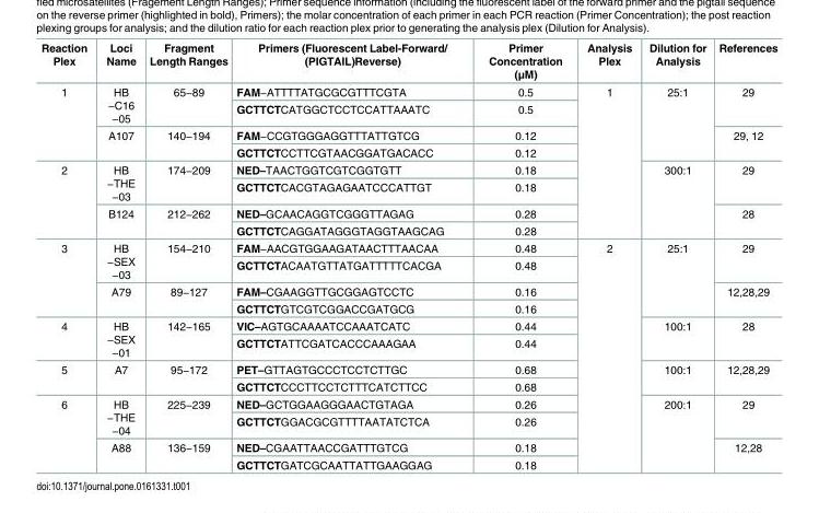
<table><thead><tr><td>Reaction Plex</td><td>Loci Name</td><td>Fragment Length Ranges</td><td>Primers (Fluorescent Label-Forward/ (PIGTAIL)Reverse)</td><td>Primer Concentration (μM)</td><td>Analysis Plex</td><td>Dilution for Analysis</td><td>References</td></tr></thead><tbody><tr><td rowspan="4">1</td><td rowspan="2">HB −C16 −05</td><td rowspan="2">65−89</td><td>FAM−ATTTTATGCGCGTTTCGTA</td><td>0.5</td><td rowspan="8">1</td><td rowspan="4">25:1</td><td rowspan="2">29</td></tr><tr><td>GCTTCTCATGGCTCCTCCATTAAATC</td><td>0.5</td></tr><tr><td rowspan="2">A107</td><td rowspan="2">140−194</td><td>FAM−CCGTGGGAGGTTTATTGTCG</td><td>0.12</td><td rowspan="2">29, 12</td></tr><tr><td>GCTTCTCCTTCGTAACGGATGACACC</td><td>0.12</td></tr><tr><td rowspan="4">2</td><td rowspan="2">HB −THE −03</td><td rowspan="2">174−209</td><td>NED–TAACTGGTCGTCGGTGTT</td><td>0.18</td><td rowspan="4">300:1</td><td rowspan="2">29</td></tr><tr><td>GCTTCTCACGTAGAGAATCCCATTGT</td><td>0.18</td></tr><tr><td rowspan="2">B124</td><td rowspan="2">212−262</td><td>NED–GCAACAGGTCGGGTTAGAG</td><td>0.28</td><td rowspan="2">28</td></tr><tr><td>GCTTCTCAGGATAGGGTAGGTAAGCAG</td><td>0.28</td></tr><tr><td rowspan="4">3</td><td rowspan="2">HB −SEX −03</td><td rowspan="2">154−210</td><td>FAM−AACGTGGAAGATAACTTTAACAA</td><td>0.48</td><td rowspan="12">2</td><td rowspan="4">25:1</td><td rowspan="2">29</td></tr><tr><td>GCTTCTACAATGTTATGATTTTTCACGA</td><td>0.48</td></tr><tr><td rowspan="2">A79</td><td rowspan="2">89−127</td><td>FAM–CGAAGGTTGCGGAGTCCTC</td><td>0.16</td><td rowspan="2">12,28,29</td></tr><tr><td>GCTTCTGTCGTCGGACCGATGCG</td><td>0.16</td></tr><tr><td rowspan="2">4</td><td rowspan="2">HB −SEX −01</td><td rowspan="2">142−165</td><td>VIC–AGTGCAAAATCCAAATCATC</td><td>0.44</td><td rowspan="2">100:1</td><td rowspan="2">28</td></tr><tr><td>GCTTCTATTCGATCACCCAAAGAA</td><td>0.44</td></tr><tr><td rowspan="2">5</td><td rowspan="2">A7</td><td rowspan="2">95−172</td><td>PET–GTTAGTGCCCTCCTCTTGC</td><td>0.68</td><td rowspan="2">100:1</td><td rowspan="2">12,28,29</td></tr><tr><td>GCTTCTCCCTTCCTCTTTCATCTTCC</td><td>0.68</td></tr><tr><td rowspan="4">6</td><td rowspan="2">HB −THE −04</td><td rowspan="2">225−239</td><td>NED–GCTGGAAGGGAACTGTAGA</td><td>0.26</td><td rowspan="4">200:1</td><td rowspan="2">29</td></tr><tr><td>GCTTCTGGACGCGTTTTAATATCTCA</td><td>0.26</td></tr><tr><td rowspan="2">A88</td><td rowspan="2">136−159</td><td>NED–CGAATTAACCGATTTGTCG</td><td>0.18</td><td rowspan="2">12,28</td></tr><tr><td>GCTTCTGATCGCAATTATTGAAGGAG</td><td>0.18</td></tr></tbody></table>